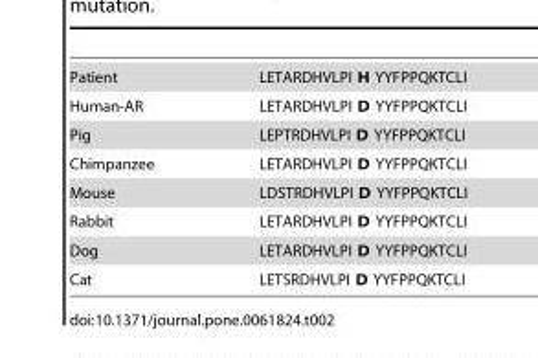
<table><tbody><tr><td>Patient</td><td>LETARDHVLPI H YYFPPQKTCLI</td></tr><tr><td>Human-AR</td><td>LETARDHVLPI D YYFPPQKTCLI</td></tr><tr><td>Pig</td><td>LEPTRDHVLPI D YYFPPQKTCLI</td></tr><tr><td>Chimpanzee</td><td>LETARDHVLPI D YYFPPQKTCLI</td></tr><tr><td>Mouse</td><td>LDSTRDHVLPI D YYFPPQKTCLI</td></tr><tr><td>Rabbit</td><td>LETARDHVLPI D YYFPPQKTCLI</td></tr><tr><td>Dog</td><td>LETARDHVLPI D YYFPPQKTCLI</td></tr><tr><td>Cat</td><td>LETSRDHVLPI D YYFPPQKTCLI</td></tr></tbody></table>